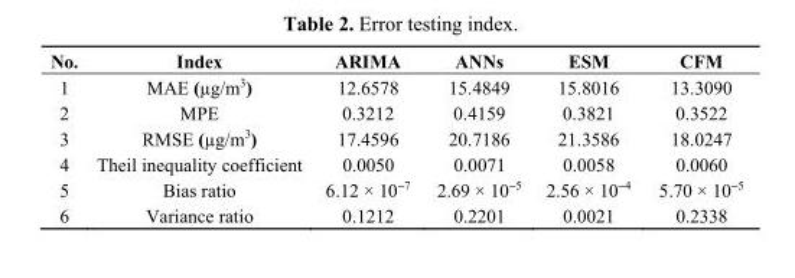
<table><thead><tr><td>No.</td><td>Index</td><td>ARIMA</td><td>ANNs</td><td>ESM</td><td>CFM</td></tr></thead><tbody><tr><td>1</td><td>MAE (µg/m<sup>3</sup>)</td><td>12.6578</td><td>15.4849</td><td>15.8016</td><td>13.3090</td></tr><tr><td>2</td><td>MPE</td><td>0.3212</td><td>0.4159</td><td>0.3821</td><td>0.3522</td></tr><tr><td>3</td><td>RMSE (µg/m<sup>3</sup>)</td><td>17.4596</td><td>20.7186</td><td>21.3586</td><td>18.0247</td></tr><tr><td>4</td><td>Theil inequality coefficient</td><td>0.0050</td><td>0.0071</td><td>0.0058</td><td>0.0060</td></tr><tr><td>5</td><td>Bias ratio</td><td>6.12 × 10<sup>−7</sup></td><td>2.69 × 10<sup>−5</sup></td><td>2.56 × 10<sup>−4</sup></td><td>5.70 × 10<sup>−5</sup></td></tr><tr><td>6</td><td>Variance ratio</td><td>0.1212</td><td>0.2201</td><td>0.0021</td><td>0.2338</td></tr></tbody></table>